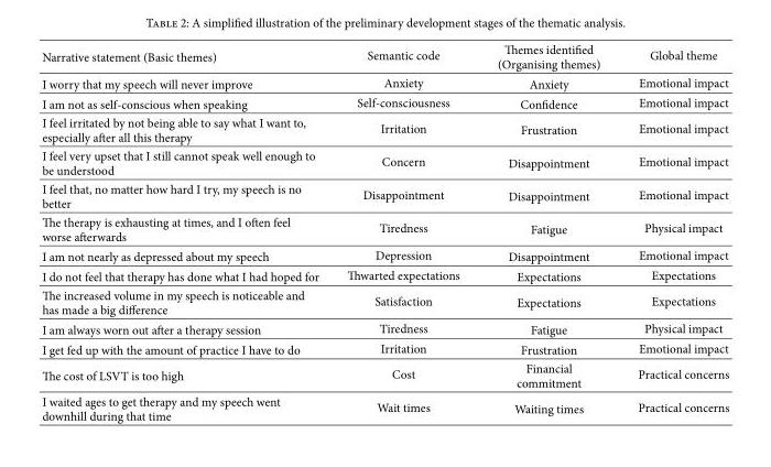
<table><thead><tr><td>Narrative statement (Basic themes)</td><td>Semantic code</td><td>Themes identified (Organising themes)</td><td>Global theme</td></tr></thead><tbody><tr><td>I worry that my speech will never improve</td><td>Anxiety</td><td>Anxiety</td><td>Emotional impact</td></tr><tr><td>I am not as self-conscious when speaking</td><td>Self-consciousness</td><td>Confidence</td><td>Emotional impact</td></tr><tr><td>I feel irritated by not being able to say what I want to, especially after all this therapy</td><td>Irritation</td><td>Frustration</td><td>Emotional impact</td></tr><tr><td>I feel very upset that I still cannot speak well enough to be understood</td><td>Concern</td><td>Disappointment</td><td>Emotional impact</td></tr><tr><td>I feel that, no matter how hard I try, my speech is no better</td><td>Disappointment</td><td>Disappointment</td><td>Emotional impact</td></tr><tr><td>The therapy is exhausting at times, and I often feel worse afterwards</td><td>Tiredness</td><td>Fatigue</td><td>Physical impact</td></tr><tr><td>I am not nearly as depressed about my speech</td><td>Depression</td><td>Disappointment</td><td>Emotional impact</td></tr><tr><td>I do not feel that therapy has done what I had hoped for</td><td>Thwarted expectations</td><td>Expectations</td><td>Expectations</td></tr><tr><td>The increased volume in my speech is noticeable and has made a big difference</td><td>Satisfaction</td><td>Expectations</td><td>Expectations</td></tr><tr><td>I am always worn out after a therapy session</td><td>Tiredness</td><td>Fatigue</td><td>Physical impact</td></tr><tr><td>I get fed up with the amount of practice I have to do</td><td>Irritation</td><td>Frustration</td><td>Emotional impact</td></tr><tr><td>The cost of LSVT is too high</td><td>Cost</td><td>Financial commitment</td><td>Practical concerns</td></tr><tr><td>I waited ages to get therapy and my speech went downhill during that time</td><td>Wait times</td><td>Waiting times</td><td>Practical concerns</td></tr></tbody></table>